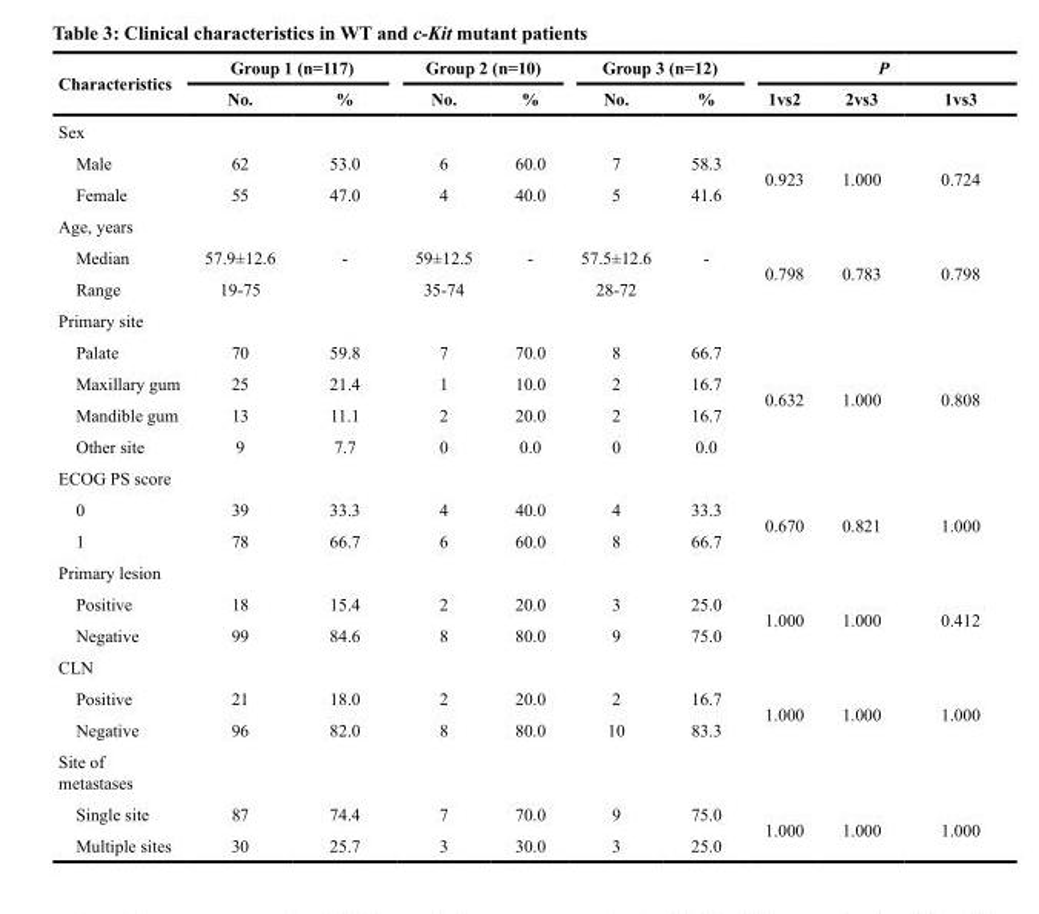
<table><thead><tr><td rowspan="2">Characteristics</td><td colspan="2">Group 1 (n=117)</td><td colspan="2">Group 2 (n=10)</td><td colspan="2">Group 3 (n=12)</td><td colspan="3">P</td></tr><tr><td>No.</td><td>%</td><td>No.</td><td>%</td><td>No.</td><td>%</td><td>1vs2</td><td>2vs3</td><td>1vs3</td></tr></thead><tbody><tr><td colspan="10">Sex</td></tr><tr><td>Male</td><td>62</td><td>53.0</td><td>6</td><td>60.0</td><td>7</td><td>58.3</td><td rowspan="2">0.923</td><td rowspan="2">1.000</td><td rowspan="2">0.724</td></tr><tr><td>Female</td><td>55</td><td>47.0</td><td>4</td><td>40.0</td><td>5</td><td>41.6</td></tr><tr><td colspan="10">Age, years</td></tr><tr><td>Median</td><td>57.9±12.6</td><td>-</td><td>59±12.5</td><td>-</td><td>57.5±12.6</td><td>-</td><td rowspan="2">0.798</td><td rowspan="2">0.783</td><td rowspan="2">0.798</td></tr><tr><td>Range</td><td>19-75</td><td></td><td>35-74</td><td></td><td>28-72</td><td></td></tr><tr><td colspan="10">Primary site</td></tr><tr><td>Palate</td><td>70</td><td>59.8</td><td>7</td><td>70.0</td><td>8</td><td>66.7</td><td rowspan="4">0.632</td><td rowspan="4">1.000</td><td rowspan="4">0.808</td></tr><tr><td>Maxillary gum</td><td>25</td><td>21.4</td><td>1</td><td>10.0</td><td>2</td><td>16.7</td></tr><tr><td>Mandible gum</td><td>13</td><td>11.1</td><td>2</td><td>20.0</td><td>2</td><td>16.7</td></tr><tr><td>Other site</td><td>9</td><td>7.7</td><td>0</td><td>0.0</td><td>0</td><td>0.0</td></tr><tr><td colspan="10">ECOG PS score</td></tr><tr><td>0</td><td>39</td><td>33.3</td><td>4</td><td>40.0</td><td>4</td><td>33.3</td><td rowspan="2">0.670</td><td rowspan="2">0.821</td><td rowspan="2">1.000</td></tr><tr><td>1</td><td>78</td><td>66.7</td><td>6</td><td>60.0</td><td>8</td><td>66.7</td></tr><tr><td colspan="10">Primary lesion</td></tr><tr><td>Positive</td><td>18</td><td>15.4</td><td>2</td><td>20.0</td><td>3</td><td>25.0</td><td rowspan="2">1.000</td><td rowspan="2">1.000</td><td rowspan="2">0.412</td></tr><tr><td>Negative</td><td>99</td><td>84.6</td><td>8</td><td>80.0</td><td>9</td><td>75.0</td></tr><tr><td colspan="10">CLN</td></tr><tr><td>Positive</td><td>21</td><td>18.0</td><td>2</td><td>20.0</td><td>2</td><td>16.7</td><td rowspan="2">1.000</td><td rowspan="2">1.000</td><td rowspan="2">1.000</td></tr><tr><td>Negative</td><td>96</td><td>82.0</td><td>8</td><td>80.0</td><td>10</td><td>83.3</td></tr><tr><td colspan="10">Site of metastases</td></tr><tr><td>Single site</td><td>87</td><td>74.4</td><td>7</td><td>70.0</td><td>9</td><td>75.0</td><td rowspan="2">1.000</td><td rowspan="2">1.000</td><td rowspan="2">1.000</td></tr><tr><td>Multiple sites</td><td>30</td><td>25.7</td><td>3</td><td>30.0</td><td>3</td><td>25.0</td></tr></tbody></table>